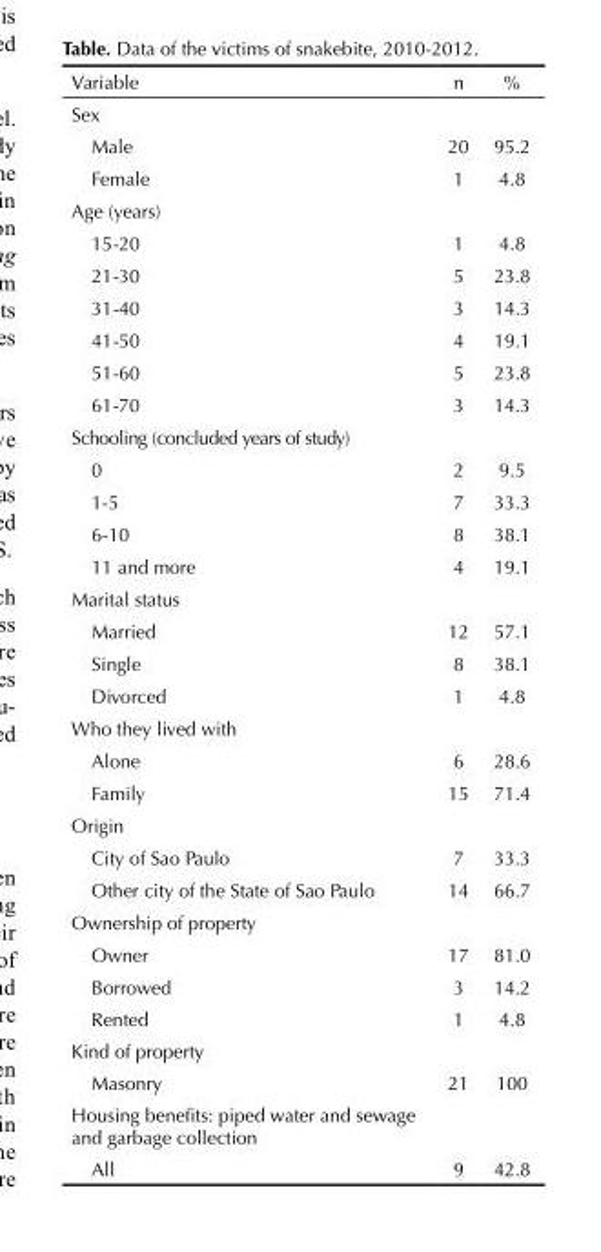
<table><thead><tr><td>Variable</td><td>n</td><td>%</td></tr></thead><tbody><tr><td colspan="3">Sex</td></tr><tr><td>Male</td><td>20</td><td>95.2</td></tr><tr><td>Female</td><td>1</td><td>4.8</td></tr><tr><td colspan="3">Age (years)</td></tr><tr><td>15-20</td><td>1</td><td>4.8</td></tr><tr><td>21-30</td><td>5</td><td>23.8</td></tr><tr><td>31-40</td><td>3</td><td>14.3</td></tr><tr><td>41-50</td><td>4</td><td>19.1</td></tr><tr><td>51-60</td><td>5</td><td>23.8</td></tr><tr><td>61-70</td><td>3</td><td>14.3</td></tr><tr><td colspan="3">Schooling (concluded years of study)</td></tr><tr><td>0</td><td>2</td><td>9.5</td></tr><tr><td>1-5</td><td>7</td><td>33.3</td></tr><tr><td>6-10</td><td>8</td><td>38.1</td></tr><tr><td>11 and more</td><td>4</td><td>19.1</td></tr><tr><td colspan="3">Marital status</td></tr><tr><td>Married</td><td>12</td><td>57.1</td></tr><tr><td>Single</td><td>8</td><td>38.1</td></tr><tr><td>Divorced</td><td>1</td><td>4.8</td></tr><tr><td colspan="3">Who they lived with</td></tr><tr><td>Alone</td><td>6</td><td>28.6</td></tr><tr><td>Family</td><td>15</td><td>71.4</td></tr><tr><td colspan="3">Origin</td></tr><tr><td>City of Sao Paulo</td><td>7</td><td>33.3</td></tr><tr><td>Other city of the State of Sao Paulo</td><td>14</td><td>66.7</td></tr><tr><td colspan="3">Ownership of property</td></tr><tr><td>Owner</td><td>17</td><td>81.0</td></tr><tr><td>Borrowed</td><td>3</td><td>14.2</td></tr><tr><td>Rented</td><td>1</td><td>4.8</td></tr><tr><td colspan="3">Kind of property</td></tr><tr><td>Masonry</td><td>21</td><td>100</td></tr><tr><td colspan="3">Housing benefits: piped water and sewage and garbage collection</td></tr><tr><td>All</td><td>9</td><td>42.8</td></tr></tbody></table>